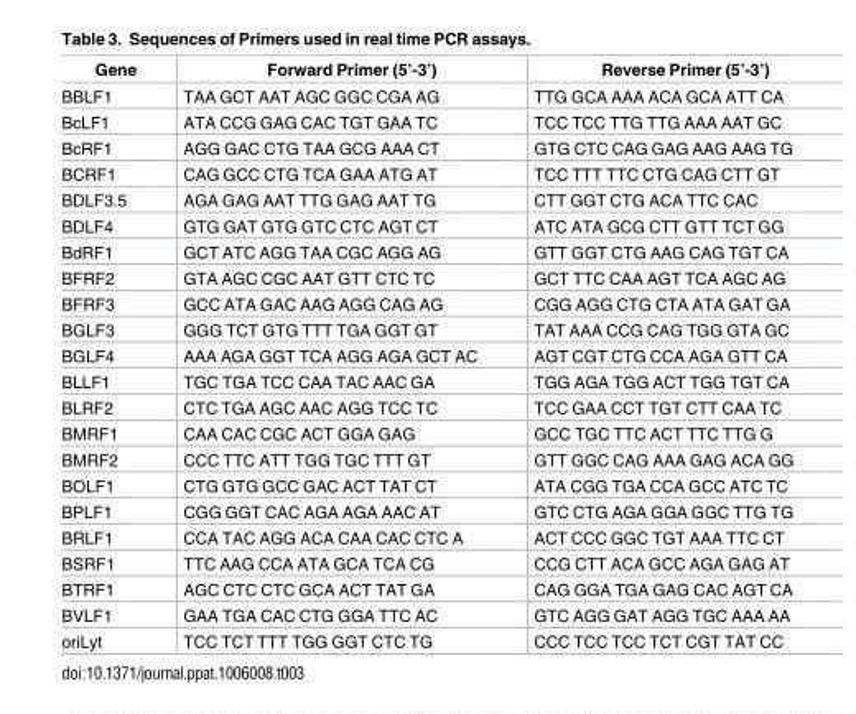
<table><thead><tr><td>Gene</td><td>Forward Primer (5’-3’)</td><td>Reverse Primer (5’-3’)</td></tr></thead><tbody><tr><td>BBLF1</td><td>TAA GCT AAT AGC GGC CGA AG</td><td>TTG GCA AAA ACA GCA ATT CA</td></tr><tr><td>BcLF1</td><td>ATA CCG GAG CAC TGT GAA TC</td><td>TCC TCC TTG TTG AAA AAT GC</td></tr><tr><td>BcRF1</td><td>AGG GAC CTG TAA GCG AAA CT</td><td>GTG CTC CAG GAG AAG AAG TG</td></tr><tr><td>BCRF1</td><td>CAG GCC CTG TCA GAA ATG AT</td><td>TCC TTT TTC CTG CAG CTT GT</td></tr><tr><td>BDLF3.5</td><td>AGA GAG AAT TTG GAG AAT TG</td><td>CTT GGT CTG ACA TTC CAC</td></tr><tr><td>BDLF4</td><td>GTG GAT GTG GTC CTC AGT CT</td><td>ATC ATA GCG CTT GTT TCT GG</td></tr><tr><td>BdRF1</td><td>GCT ATC AGG TAA CGC AGG AG</td><td>GTT GGT CTG AAG CAG TGT CA</td></tr><tr><td>BFRF2</td><td>GTA AGC CGC AAT GTT CTC TC</td><td>GCT TTC CAA AGT TCA AGC AG</td></tr><tr><td>BFRF3</td><td>GCC ATA GAC AAG AGG CAG AG</td><td>CGG AGG CTG CTA ATA GAT GA</td></tr><tr><td>BGLF3</td><td>GGG TCT GTG TTT TGA GGT GT</td><td>TAT AAA CCG CAG TGG GTA GC</td></tr><tr><td>BGLF4</td><td>AAA AGA GGT TCA AGG AGA GCT AC</td><td>AGT CGT CTG CCA AGA GTT CA</td></tr><tr><td>BLLF1</td><td>TGC TGA TCC CAA TAC AAC GA</td><td>TGG AGA TGG ACT TGG TGT CA</td></tr><tr><td>BLRF2</td><td>CTC TGA AGC AAC AGG TCC TC</td><td>TCC GAA CCT TGT CTT CAA TC</td></tr><tr><td>BMRF1</td><td>CAA CAC CGC ACT GGA GAG</td><td>GCC TGC TTC ACT TTC TTG G</td></tr><tr><td>BMRF2</td><td>CCC TTC ATT TGG TGC TTT GT</td><td>GTT GGC CAG AAA GAG ACA GG</td></tr><tr><td>BOLF1</td><td>CTG GTG GCC GAC ACT TAT CT</td><td>ATA CGG TGA CCA GCC ATC TC</td></tr><tr><td>BPLF1</td><td>CGG GGT CAC AGA AGA AAC AT</td><td>GTC CTG AGA GGA GGC TTG TG</td></tr><tr><td>BRLF1</td><td>CCA TAC AGG ACA CAA CAC CTC A</td><td>ACT CCC GGC TGT AAA TTC CT</td></tr><tr><td>BSRF1</td><td>TTC AAG CCA ATA GCA TCA CG</td><td>CCG CTT ACA GCC AGA GAG AT</td></tr><tr><td>BTRF1</td><td>AGC CTC CTC GCA ACT TAT GA</td><td>CAG GGA TGA GAG CAC AGT CA</td></tr><tr><td>BVLF1</td><td>GAA TGA CAC CTG GGA TTC AC</td><td>GTC AGG GAT AGG TGC AAA AA</td></tr><tr><td>oriLyt</td><td>TCC TCT TTT TGG GGT CTC TG</td><td>CCC TCC TCC TCT CGT TAT CC</td></tr></tbody></table>